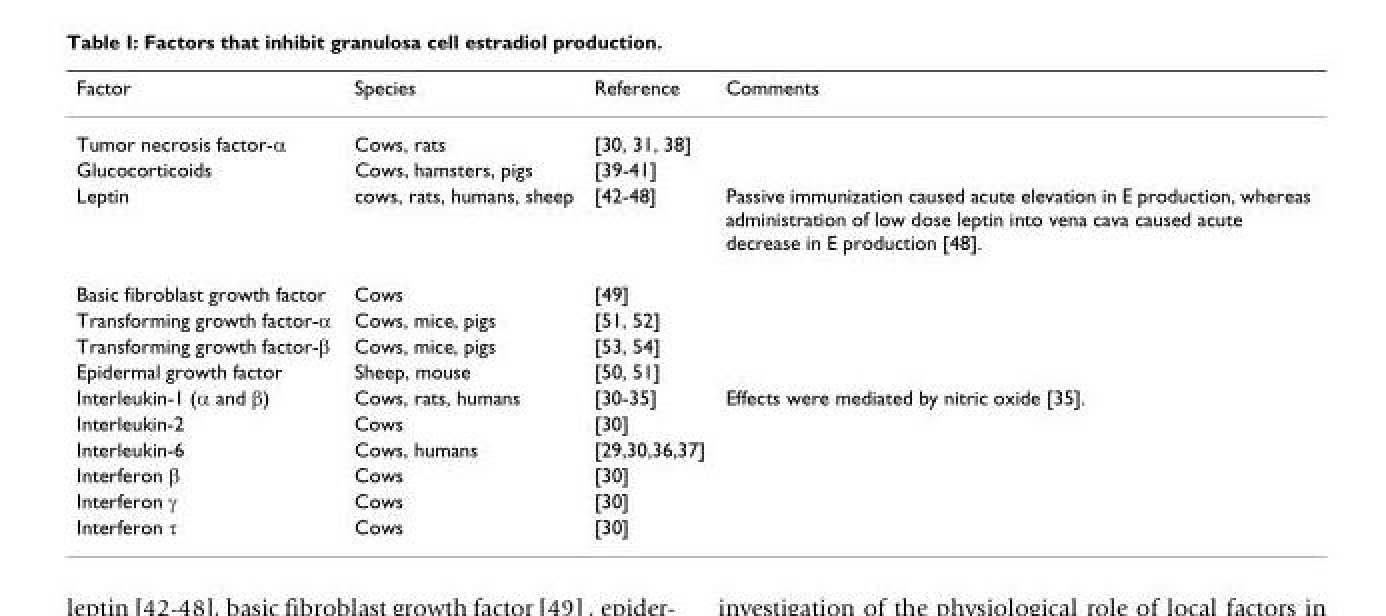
<table><thead><tr><td>Factor</td><td>Species</td><td>Reference</td><td>Comments</td></tr></thead><tbody><tr><td>Tumor necrosis factor-α</td><td>Cows, rats</td><td>[30, 31, 38]</td><td></td></tr><tr><td>Glucocorticoids</td><td>Cows, hamsters, pigs</td><td>[39-41]</td><td></td></tr><tr><td>Leptin</td><td>cows, rats, humans, sheep</td><td>[42-48]</td><td>Passive immunization caused acute elevation in E production, whereas administration of low dose leptin into vena cava caused acute decrease in E production [48].</td></tr><tr><td>Basic fibroblast growth factor</td><td>Cows</td><td>[49]</td><td></td></tr><tr><td>Transforming growth factor-α</td><td>Cows, mice, pigs</td><td>[51, 52]</td><td></td></tr><tr><td>Transforming growth factor-β</td><td>Cows, mice, pigs</td><td>[53, 54]</td><td></td></tr><tr><td>Epidermal growth factor</td><td>Sheep, mouse</td><td>[50, 51]</td><td></td></tr><tr><td>Interleukin-1 (α and β)</td><td>Cows, rats, humans</td><td>[30-35]</td><td>Effects were mediated by nitric oxide [35].</td></tr><tr><td>Interleukin-2</td><td>Cows</td><td>[30]</td><td></td></tr><tr><td>Interleukin-6</td><td>Cows, humans</td><td>[29,30,36,37]</td><td></td></tr><tr><td>Interferon β</td><td>Cows</td><td>[30]</td><td></td></tr><tr><td>Interferon γ</td><td>Cows</td><td>[30]</td><td></td></tr><tr><td>Interferon τ</td><td>Cows</td><td>[30]</td><td></td></tr></tbody></table>